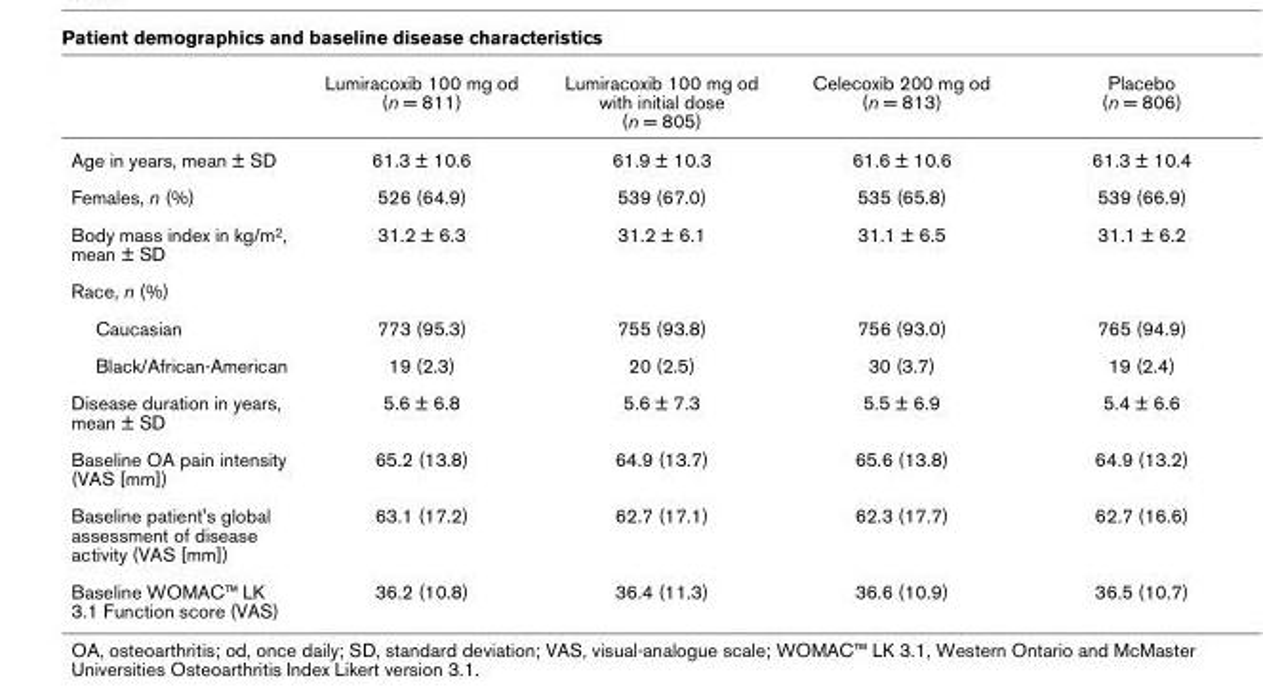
<table><thead><tr><td></td><td>Lumiracoxib 100 mg od (n = 811)</td><td>Lumiracoxib 100 mg od with initial dose (n = 805)</td><td>Celecoxib 200 mg od (n = 813)</td><td>Placebo (n = 806)</td></tr></thead><tbody><tr><td>Age in years, mean ± SD</td><td>61.3 ± 10.6</td><td>61.9 ± 10.3</td><td>61.6 ± 10.6</td><td>61.3 ± 10.4</td></tr><tr><td>Females, n (%)</td><td>526 (64.9)</td><td>539 (67.0)</td><td>535 (65.8)</td><td>539 (66.9)</td></tr><tr><td>Body mass index in kg/m2, mean ± SD</td><td>31.2 ± 6.3</td><td>31.2 ± 6.1</td><td>31.1 ± 6.5</td><td>31.1 ± 6.2</td></tr><tr><td colspan="5">Race, n (%)</td></tr><tr><td>Caucasian</td><td>773 (95.3)</td><td>755 (93.8)</td><td>756 (93.0)</td><td>765 (94.9)</td></tr><tr><td>Black/African-American</td><td>19 (2.3)</td><td>20 (2.5)</td><td>30 (3.7)</td><td>19 (2.4)</td></tr><tr><td>Disease duration in years, mean ± SD</td><td>5.6 ± 6.8</td><td>5.6 ± 7.3</td><td>5.5 ± 6.9</td><td>5.4 ± 6.6</td></tr><tr><td>Baseline OA pain intensity (VAS [mm])</td><td>65.2 (13.8)</td><td>64.9 (13.7)</td><td>65.6 (13.8)</td><td>64.9 (13.2)</td></tr><tr><td>Baseline patient&#x27;s global assessment of disease activity (VAS [mm])</td><td>63.1 (17.2)</td><td>62.7 (17.1)</td><td>62.3 (17.7)</td><td>62.7 (16.6)</td></tr><tr><td>Baseline WOMAC™ LK 3.1 Function score (VAS)</td><td>36.2 (10.8)</td><td>36.4 (11.3)</td><td>36.6 (10.9)</td><td>36.5 (10.7)</td></tr></tbody></table>